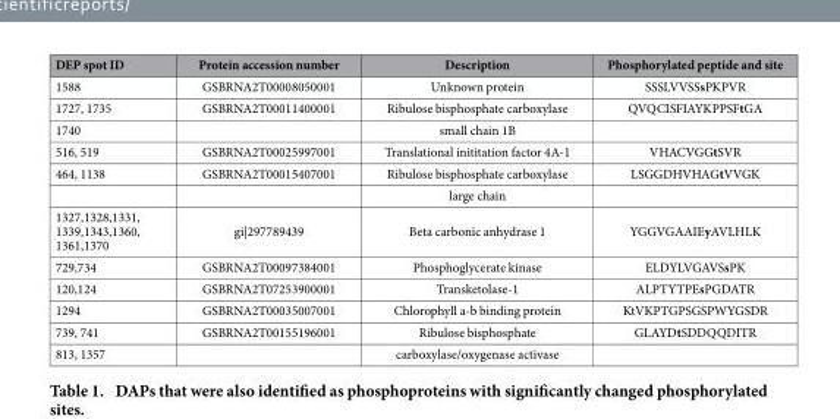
<table><thead><tr><td>DEP spot ID</td><td>Protein accession number</td><td>Description</td><td>Phosphorylated peptide and site</td></tr></thead><tbody><tr><td>1588</td><td>GSBRNA2T00008050001</td><td>Unknown protein</td><td>SSSLVVSSsPKPVR</td></tr><tr><td>1727, 1735</td><td>GSBRNA2T00011400001</td><td>Ribulose bisphosphate carboxylase</td><td>QVQCISFIAYKPPSFtGA</td></tr><tr><td>1740</td><td></td><td>small chain 1B</td><td></td></tr><tr><td>516, 519</td><td>GSBRNA2T00025997001</td><td>Translational inititation factor 4A-1</td><td>VHACVGGtSVR</td></tr><tr><td rowspan="2">464, 1138</td><td>GSBRNA2T00015407001</td><td>Ribulose bisphosphate carboxylase</td><td>LSGGDHVHAGtVVGK</td></tr><tr><td></td><td>large chain</td><td></td></tr><tr><td>1327,1328,1331, 1339,1343,1360, 1361,1370</td><td>gi|297789439</td><td>Beta carbonic anhydrase 1</td><td>YGGVGAAIEyAVLHLK</td></tr><tr><td>729,734</td><td>GSBRNA2T00097384001</td><td>Phosphoglycerate kinase</td><td>ELDYLVGAVSsPK</td></tr><tr><td>120,124</td><td>GSBRNA2T07253900001</td><td>Transketolase-1</td><td>ALPTYTPEsPGDATR</td></tr><tr><td>1294</td><td>GSBRNA2T00035007001</td><td>Chlorophyll a-b binding protein</td><td>KtVKPTGPSGSPWYGSDR</td></tr><tr><td>739, 741</td><td>GSBRNA2T00155196001</td><td>Ribulose bisphosphate</td><td>GLAYDtSDDQQDITR</td></tr><tr><td>813, 1357</td><td></td><td>carboxylase/oxygenase activase</td><td></td></tr></tbody></table>